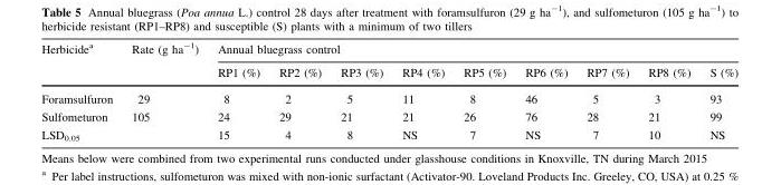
<table><thead><tr><td rowspan="2">Herbicide<sup>a</sup></td><td rowspan="2">Rate (g ha<sup>-1</sup>)</td><td colspan="9">Annual bluegrass control</td></tr><tr><td>RP1 (%)</td><td>RP2 (%)</td><td>RP3 (%)</td><td>RP4 (%)</td><td>RP5 (%)</td><td>RP6 (%)</td><td>RP7 (%)</td><td>RP8 (%)</td><td>S (%)</td></tr></thead><tbody><tr><td>Foramsulfuron</td><td>29</td><td>8</td><td>2</td><td>5</td><td>11</td><td>8</td><td>46</td><td>5</td><td>3</td><td>93</td></tr><tr><td>Sulfometuron</td><td>105</td><td>24</td><td>29</td><td>21</td><td>21</td><td>26</td><td>76</td><td>28</td><td>21</td><td>99</td></tr><tr><td colspan="2">LSD<sub>0.05</sub></td><td>15</td><td>4</td><td>8</td><td>NS</td><td>7</td><td>NS</td><td>7</td><td>10</td><td>NS</td></tr></tbody></table>